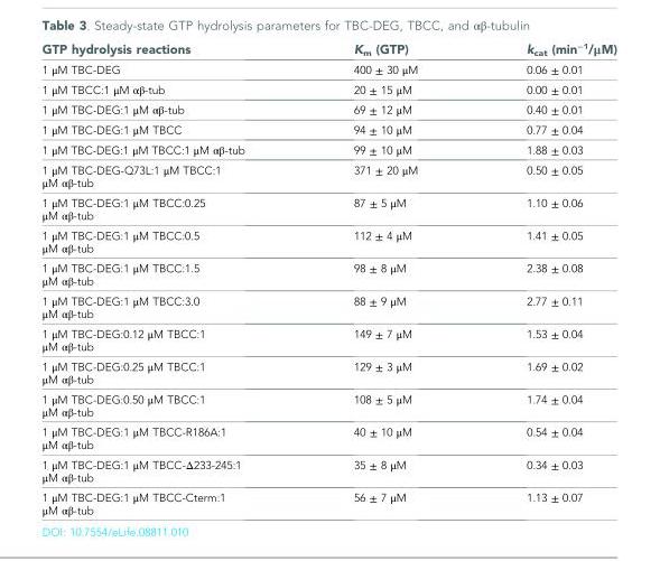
<table><thead><tr><td>GTP hydrolysis reactions</td><td>K<sub>m</sub> (GTP)</td><td>k<sub>cat</sub> (min<sup>−1</sup>/μM)</td></tr></thead><tbody><tr><td>1 μM TBC-DEG</td><td>400 ± 30 μM</td><td>0.06 ± 0.01</td></tr><tr><td>1 μM TBCC:1 μM αβ-tub</td><td>20 ± 15 μM</td><td>0.00 ± 0.01</td></tr><tr><td>1 μM TBC-DEG:1 μM αβ-tub</td><td>69 ± 12 μM</td><td>0.40 ± 0.01</td></tr><tr><td>1 μM TBC-DEG:1 μM TBCC</td><td>94 ± 10 μM</td><td>0.77 ± 0.04</td></tr><tr><td>1 μM TBC-DEG:1 μM TBCC:1 μM αβ-tub</td><td>99 ± 10 μM</td><td>1.88 ± 0.03</td></tr><tr><td>1 μM TBC-DEG-Q73L:1 μM TBCC:1 μM αβ-tub</td><td>371 ± 20 μM</td><td>0.50 ± 0.05</td></tr><tr><td>1 μM TBC-DEG:1 μM TBCC:0.25 μM αβ-tub</td><td>87 ± 5 μM</td><td>1.10 ± 0.06</td></tr><tr><td>1 μM TBC-DEG:1 μM TBCC:0.5 μM αβ-tub</td><td>112 ± 4 μM</td><td>1.41 ± 0.05</td></tr><tr><td>1 μM TBC-DEG:1 μM TBCC:1.5 μM αβ-tub</td><td>98 ± 8 μM</td><td>2.38 ± 0.08</td></tr><tr><td>1 μM TBC-DEG:1 μM TBCC:3.0 μM αβ-tub</td><td>88 ± 9 μM</td><td>2.77 ± 0.11</td></tr><tr><td>1 μM TBC-DEG:0.12 μM TBCC:1 μM αβ-tub</td><td>149 ± 7 μM</td><td>1.53 ± 0.04</td></tr><tr><td>1 μM TBC-DEG:0.25 μM TBCC:1 μM αβ-tub</td><td>129 ± 3 μM</td><td>1.69 ± 0.02</td></tr><tr><td>1 μM TBC-DEG:0.50 μM TBCC:1 μM αβ-tub</td><td>108 ± 5 μM</td><td>1.74 ± 0.04</td></tr><tr><td>1 μM TBC-DEG:1 μM TBCC-R186A:1 μM αβ-tub</td><td>40 ± 10 μM</td><td>0.54 ± 0.04</td></tr><tr><td>1 μM TBC-DEG:1 μM TBCC-Δ233-245:1 μM αβ-tub</td><td>35 ± 8 μM</td><td>0.34 ± 0.03</td></tr><tr><td>1 μM TBC-DEG:1 μM TBCC-Cterm:1 μM αβ-tub</td><td>56 ± 7 μM</td><td>1.13 ± 0.07</td></tr></tbody></table>